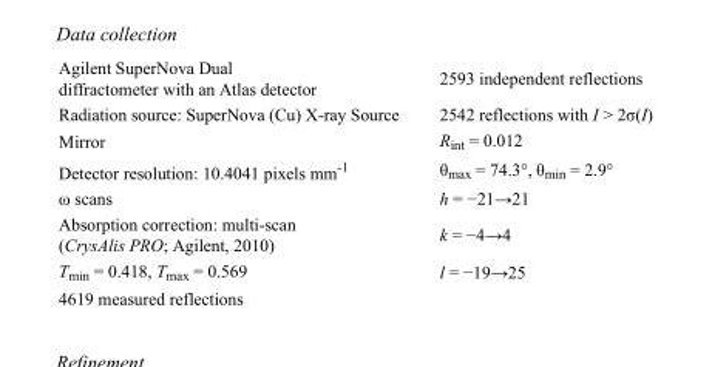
<table><tbody><tr><td>Agilent SuperNova Dual diffractometer with an Atlas detector</td><td>2593 independent reflections</td></tr><tr><td>Radiation source: SuperNova (Cu) X-ray Source</td><td>2542 reflections with I &gt; 2σ(I)</td></tr><tr><td>Mirror</td><td>R<sub>int</sub> = 0.012</td></tr><tr><td>Detector resolution: 10.4041 pixels mm<sup>-1</sup></td><td>θ<sub>max</sub> = 74.3°, θ<sub>min</sub> = 2.9°</td></tr><tr><td>ω scans</td><td>h = −21→21</td></tr><tr><td>Absorption correction: multi-scan (CrysAlis PRO; Agilent, 2010)</td><td>k = −4→4</td></tr><tr><td>T<sub>min</sub> = 0.418, T<sub>max</sub> = 0.569</td><td>l = −19→25</td></tr><tr><td>4619 measured reflections</td><td></td></tr></tbody></table>